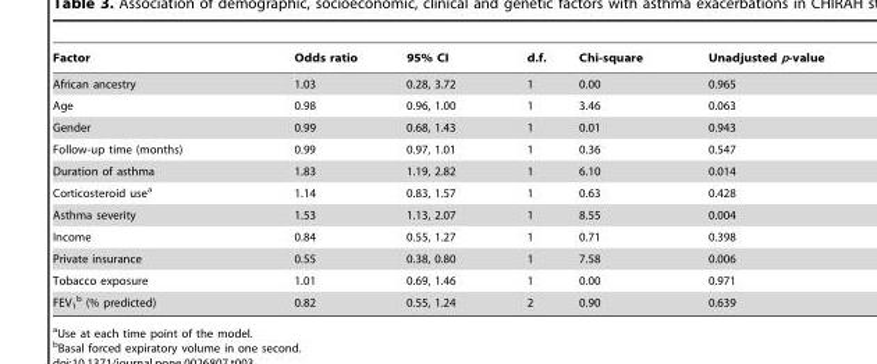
<table><thead><tr><td>Factor</td><td>Odds ratio</td><td>95% CI</td><td>d.f.</td><td>Chi-square</td><td>Unadjusted p-value</td></tr></thead><tbody><tr><td>African ancestry</td><td>1.03</td><td>0.28, 3.72</td><td>1</td><td>0.00</td><td>0.965</td></tr><tr><td>Age</td><td>0.98</td><td>0.96, 1.00</td><td>1</td><td>3.46</td><td>0.063</td></tr><tr><td>Gender</td><td>0.99</td><td>0.68, 1.43</td><td>1</td><td>0.01</td><td>0.943</td></tr><tr><td>Follow-up time (months)</td><td>0.99</td><td>0.97, 1.01</td><td>1</td><td>0.36</td><td>0.547</td></tr><tr><td>Duration of asthma</td><td>1.83</td><td>1.19, 2.82</td><td>1</td><td>6.10</td><td>0.014</td></tr><tr><td>Corticosteroid use<sup>a</sup></td><td>1.14</td><td>0.83, 1.57</td><td>1</td><td>0.63</td><td>0.428</td></tr><tr><td>Asthma severity</td><td>1.53</td><td>1.13, 2.07</td><td>1</td><td>8.55</td><td>0.004</td></tr><tr><td>Income</td><td>0.84</td><td>0.55, 1.27</td><td>1</td><td>0.71</td><td>0.398</td></tr><tr><td>Private insurance</td><td>0.55</td><td>0.38, 0.80</td><td>1</td><td>7.58</td><td>0.006</td></tr><tr><td>Tobacco exposure</td><td>1.01</td><td>0.69, 1.46</td><td>1</td><td>0.00</td><td>0.971</td></tr><tr><td>FEV<sub>1</sub> b (% predicted)</td><td>0.82</td><td>0.55, 1.24</td><td>2</td><td>0.90</td><td>0.639</td></tr></tbody></table>